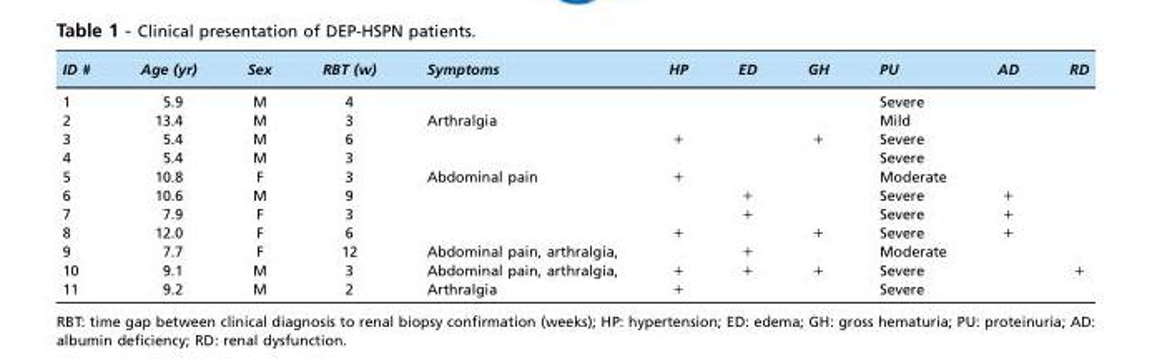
<table><thead><tr><td>ID #</td><td>Age (yr)</td><td>Sex</td><td>RBT (w)</td><td>Symptoms</td><td>HP</td><td>ED</td><td>GH</td><td>PU</td><td>AD</td><td>RD</td></tr></thead><tbody><tr><td>1</td><td>5.9</td><td>M</td><td>4</td><td></td><td></td><td></td><td></td><td>Severe</td><td></td><td></td></tr><tr><td>2</td><td>13.4</td><td>M</td><td>3</td><td>Arthralgia</td><td></td><td></td><td></td><td>Mild</td><td></td><td></td></tr><tr><td>3</td><td>5.4</td><td>M</td><td>6</td><td></td><td>+</td><td></td><td>+</td><td>Severe</td><td></td><td></td></tr><tr><td>4</td><td>5.4</td><td>M</td><td>3</td><td></td><td></td><td></td><td></td><td>Severe</td><td></td><td></td></tr><tr><td>5</td><td>10.8</td><td>F</td><td>3</td><td>Abdominal pain</td><td>+</td><td></td><td></td><td>Moderate</td><td></td><td></td></tr><tr><td>6</td><td>10.6</td><td>M</td><td>9</td><td></td><td></td><td>+</td><td></td><td>Severe</td><td>+</td><td></td></tr><tr><td>7</td><td>7.9</td><td>F</td><td>3</td><td></td><td></td><td>+</td><td></td><td>Severe</td><td>+</td><td></td></tr><tr><td>8</td><td>12.0</td><td>F</td><td>6</td><td></td><td>+</td><td></td><td>+</td><td>Severe</td><td>+</td><td></td></tr><tr><td>9</td><td>7.7</td><td>F</td><td>12</td><td>Abdominal pain, arthralgia,</td><td></td><td>+</td><td></td><td>Moderate</td><td></td><td></td></tr><tr><td>10</td><td>9.1</td><td>M</td><td>3</td><td>Abdominal pain, arthralgia,</td><td>+</td><td>+</td><td>+</td><td>Severe</td><td></td><td>+</td></tr><tr><td>11</td><td>9.2</td><td>M</td><td>2</td><td>Arthralgia</td><td>+</td><td></td><td></td><td>Severe</td><td></td><td></td></tr></tbody></table>